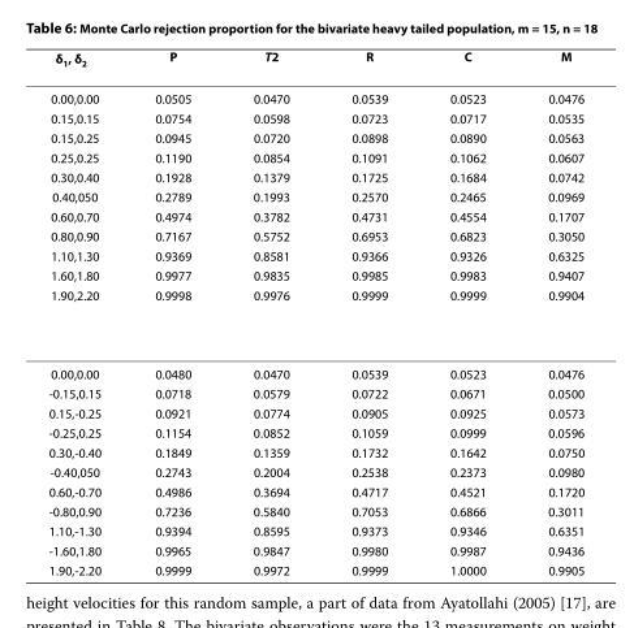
<table><thead><tr><td>δ<sub>1</sub>, δ<sub>2</sub></td><td>P</td><td>T<sup>2</sup></td><td>R</td><td>C</td><td>M</td></tr></thead><tbody><tr><td>0.00,0.00</td><td>0.0505</td><td>0.0470</td><td>0.0539</td><td>0.0523</td><td>0.0476</td></tr><tr><td>0.15,0.15</td><td>0.0754</td><td>0.0598</td><td>0.0723</td><td>0.0717</td><td>0.0535</td></tr><tr><td>0.15,0.25</td><td>0.0945</td><td>0.0720</td><td>0.0898</td><td>0.0890</td><td>0.0563</td></tr><tr><td>0.25,0.25</td><td>0.1190</td><td>0.0854</td><td>0.1091</td><td>0.1062</td><td>0.0607</td></tr><tr><td>0.30,0.40</td><td>0.1928</td><td>0.1379</td><td>0.1725</td><td>0.1684</td><td>0.0742</td></tr><tr><td>0.40,050</td><td>0.2789</td><td>0.1993</td><td>0.2570</td><td>0.2465</td><td>0.0969</td></tr><tr><td>0.60,0.70</td><td>0.4974</td><td>0.3782</td><td>0.4731</td><td>0.4554</td><td>0.1707</td></tr><tr><td>0.80,0.90</td><td>0.7167</td><td>0.5752</td><td>0.6953</td><td>0.6823</td><td>0.3050</td></tr><tr><td>1.10,1.30</td><td>0.9369</td><td>0.8581</td><td>0.9366</td><td>0.9326</td><td>0.6325</td></tr><tr><td>1.60,1.80</td><td>0.9977</td><td>0.9835</td><td>0.9985</td><td>0.9983</td><td>0.9407</td></tr><tr><td>1.90,2.20</td><td>0.9998</td><td>0.9976</td><td>0.9999</td><td>0.9999</td><td>0.9904</td></tr><tr><td>0.00,0.00</td><td>0.0480</td><td>0.0470</td><td>0.0539</td><td>0.0523</td><td>0.0476</td></tr><tr><td>-0.15,0.15</td><td>0.0718</td><td>0.0579</td><td>0.0722</td><td>0.0671</td><td>0.0500</td></tr><tr><td>0.15,-0.25</td><td>0.0921</td><td>0.0774</td><td>0.0905</td><td>0.0925</td><td>0.0573</td></tr><tr><td>-0.25,0.25</td><td>0.1154</td><td>0.0852</td><td>0.1059</td><td>0.0999</td><td>0.0596</td></tr><tr><td>0.30,-0.40</td><td>0.1849</td><td>0.1359</td><td>0.1732</td><td>0.1642</td><td>0.0750</td></tr><tr><td>-0.40,050</td><td>0.2743</td><td>0.2004</td><td>0.2538</td><td>0.2373</td><td>0.0980</td></tr><tr><td>0.60,-0.70</td><td>0.4986</td><td>0.3694</td><td>0.4717</td><td>0.4521</td><td>0.1720</td></tr><tr><td>-0.80,0.90</td><td>0.7236</td><td>0.5840</td><td>0.7053</td><td>0.6866</td><td>0.3011</td></tr><tr><td>1.10,-1.30</td><td>0.9394</td><td>0.8595</td><td>0.9373</td><td>0.9346</td><td>0.6351</td></tr><tr><td>-1.60,1.80</td><td>0.9965</td><td>0.9847</td><td>0.9980</td><td>0.9987</td><td>0.9436</td></tr><tr><td>1.90,-2.20</td><td>0.9999</td><td>0.9972</td><td>0.9999</td><td>1.0000</td><td>0.9905</td></tr></tbody></table>